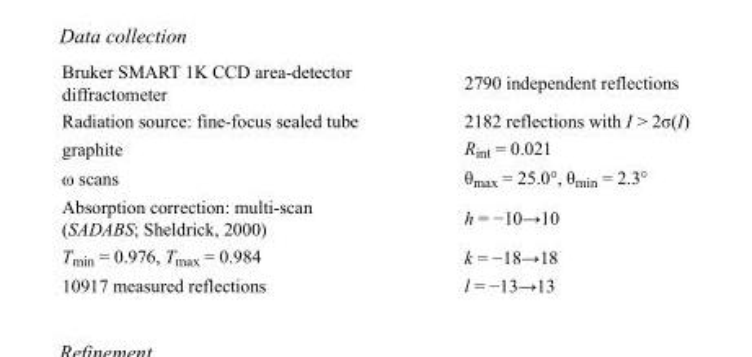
<table><tbody><tr><td>Bruker SMART 1K CCD area-detector diffractometer</td><td>2790 independent reflections</td></tr><tr><td>Radiation source: fine-focus sealed tube</td><td>2182 reflections with I &gt; 2σ(I)</td></tr><tr><td>graphite</td><td>R<sub>int</sub> = 0.021</td></tr><tr><td>ω scans</td><td>θ<sub>max</sub> = 25.0°, θ<sub>min</sub> = 2.3°</td></tr><tr><td>Absorption correction: multi-scan (SADABS; Sheldrick, 2000)</td><td>h = −10→10</td></tr><tr><td>T<sub>min</sub> = 0.976, T<sub>max</sub> = 0.984</td><td>k = −18→18</td></tr><tr><td>10917 measured reflections</td><td>l = −13→13</td></tr></tbody></table>